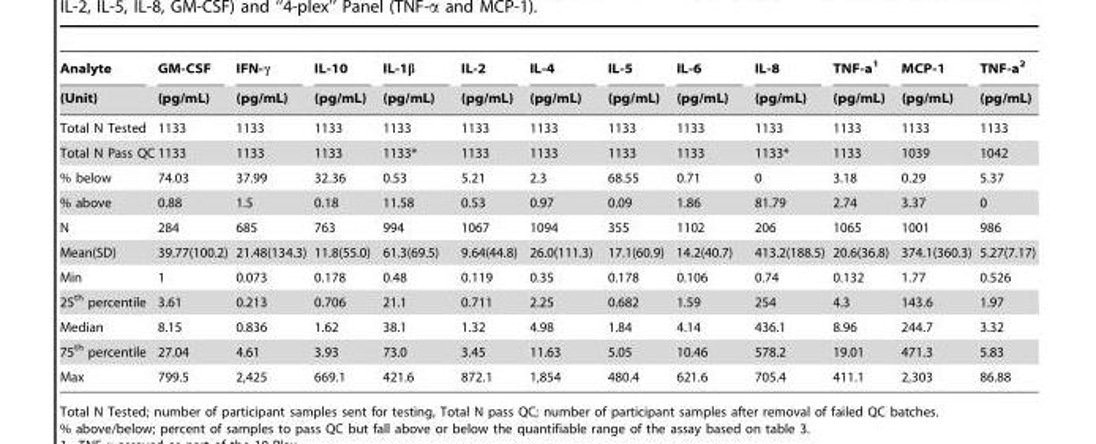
<table><thead><tr><td rowspan="2">Analyte (Unit)</td><td rowspan="2">GM-CSF (pg/mL)</td><td rowspan="2">IFN-γ (pg/mL)</td><td rowspan="2">IL-10 (pg/mL)</td><td rowspan="2">IL-1β (pg/mL)</td><td rowspan="2">IL-2 (pg/mL)</td><td rowspan="2">IL-4 (pg/mL)</td><td rowspan="2">IL-5 (pg/mL)</td><td rowspan="2">IL-6 (pg/mL)</td><td rowspan="2">IL-8 (pg/mL)</td><td rowspan="2">TNF-a<sup>1</sup> (pg/mL)</td><td rowspan="2">MCP-1 (pg/mL)</td><td rowspan="2">TNF-a<sup>2</sup> (pg/mL)</td></tr><tr></tr></thead><tbody><tr><td>Total N Tested</td><td>1133</td><td>1133</td><td>1133</td><td>1133</td><td>1133</td><td>1133</td><td>1133</td><td>1133</td><td>1133</td><td>1133</td><td>1133</td><td>1133</td></tr><tr><td>Total N Pass QC</td><td>1133</td><td>1133</td><td>1133</td><td>1133*</td><td>1133</td><td>1133</td><td>1133</td><td>1133</td><td>1133*</td><td>1133</td><td>1039</td><td>1042</td></tr><tr><td>% below</td><td>74.03</td><td>37.99</td><td>32.36</td><td>0.53</td><td>5.21</td><td>2.3</td><td>68.55</td><td>0.71</td><td>0</td><td>3.18</td><td>0.29</td><td>5.37</td></tr><tr><td>% above</td><td>0.88</td><td>1.5</td><td>0.18</td><td>11.58</td><td>0.53</td><td>0.97</td><td>0.09</td><td>1.86</td><td>81.79</td><td>2.74</td><td>3.37</td><td>0</td></tr><tr><td>N</td><td>284</td><td>685</td><td>763</td><td>994</td><td>1067</td><td>1094</td><td>355</td><td>1102</td><td>206</td><td>1065</td><td>1001</td><td>986</td></tr><tr><td>Mean(SD)</td><td>39.77(100.2)</td><td>21.48(134.3)</td><td>11.8(55.0)</td><td>61.3(69.5)</td><td>9.64(44.8)</td><td>26.0(111.3)</td><td>17.1(60.9)</td><td>14.2(40.7)</td><td>413.2(188.5)</td><td>20.6(36.8)</td><td>374.1(360.3)</td><td>5.27(7.17)</td></tr><tr><td>Min</td><td>1</td><td>0.073</td><td>0.178</td><td>0.48</td><td>0.119</td><td>0.35</td><td>0.178</td><td>0.106</td><td>0.74</td><td>0.132</td><td>1.77</td><td>0.526</td></tr><tr><td>25<sup>th</sup> percentile</td><td>3.61</td><td>0.213</td><td>0.706</td><td>21.1</td><td>0.711</td><td>2.25</td><td>0.682</td><td>1.59</td><td>254</td><td>4.3</td><td>143.6</td><td>1.97</td></tr><tr><td>Median</td><td>8.15</td><td>0.836</td><td>1.62</td><td>38.1</td><td>1.32</td><td>4.98</td><td>1.84</td><td>4.14</td><td>436.1</td><td>8.96</td><td>244.7</td><td>3.32</td></tr><tr><td>75<sup>th</sup> percentile</td><td>27.04</td><td>4.61</td><td>3.93</td><td>73.0</td><td>3.45</td><td>11.63</td><td>5.05</td><td>10.46</td><td>578.2</td><td>19.01</td><td>471.3</td><td>5.83</td></tr><tr><td>Max</td><td>799.5</td><td>2,425</td><td>669.1</td><td>421.6</td><td>872.1</td><td>1,854</td><td>480.4</td><td>621.6</td><td>705.4</td><td>411.1</td><td>2,303</td><td>86.88</td></tr></tbody></table>